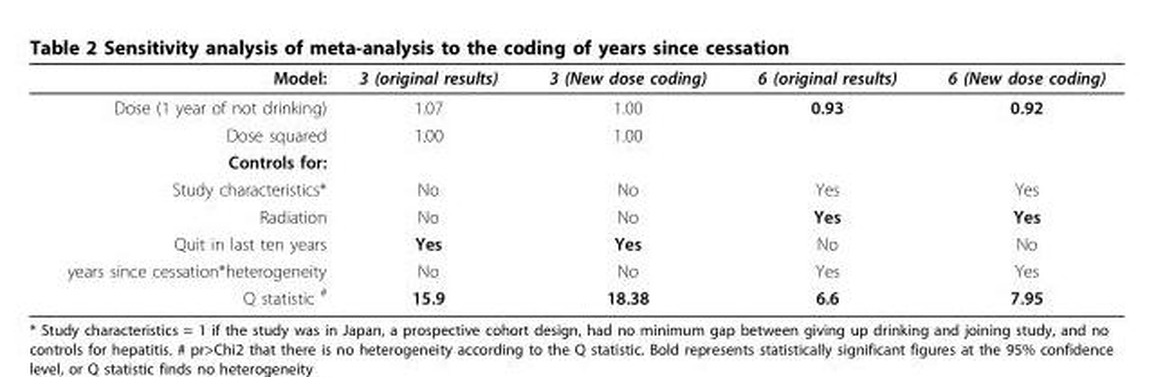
<table><thead><tr><td>Model:</td><td>3 (original results)</td><td>3 (New dose coding)</td><td>6 (original results)</td><td>6 (New dose coding)</td></tr></thead><tbody><tr><td>Dose (1 year of not drinking)</td><td>1.07</td><td>1.00</td><td>0.93</td><td>0.92</td></tr><tr><td>Dose squared</td><td>1.00</td><td>1.00</td><td></td><td></td></tr><tr><td colspan="5">Controls for:</td></tr><tr><td>Study characteristics*</td><td>No</td><td>No</td><td>Yes</td><td>Yes</td></tr><tr><td>Radiation</td><td>No</td><td>No</td><td>Yes</td><td>Yes</td></tr><tr><td>Quit in last ten years</td><td>Yes</td><td>Yes</td><td>No</td><td>No</td></tr><tr><td>years since cessation*heterogeneity</td><td>No</td><td>No</td><td>Yes</td><td>Yes</td></tr><tr><td>Q statistic <sup>#</sup></td><td>15.9</td><td>18.38</td><td>6.6</td><td>7.95</td></tr></tbody></table>